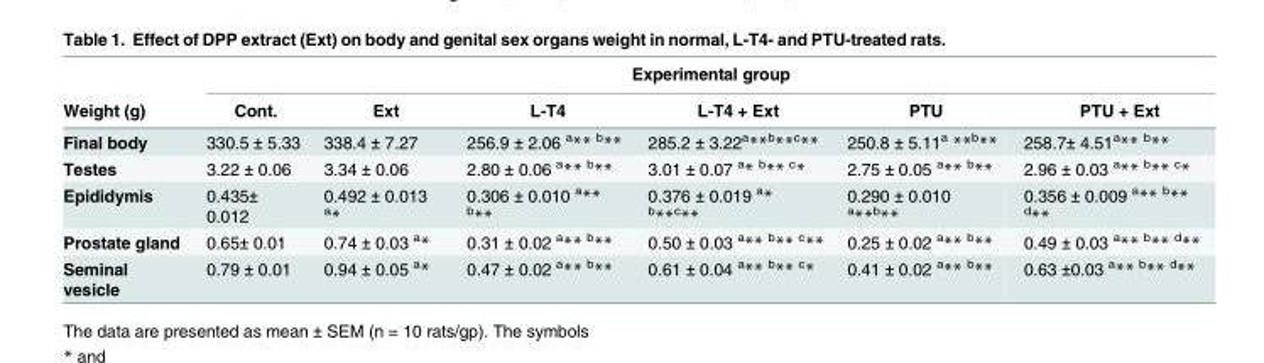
<table><thead><tr><td rowspan="2">Weight (g)</td><td colspan="6">Experimental group</td></tr><tr><td>Cont.</td><td>Ext</td><td>L-T4</td><td>L-T4 + Ext</td><td>PTU</td><td>PTU + Ext</td></tr></thead><tbody><tr><td>Final body</td><td>330.5 ± 5.33</td><td>338.4 ± 7.27</td><td>256.9 ± 2.06 a** b**</td><td>285.2 ± 3.22a**b**c**</td><td>250.8 ± 5.11a **b**</td><td>258.7± 4.51a** b**</td></tr><tr><td>Testes</td><td>3.22 ± 0.06</td><td>3.34 ± 0.06</td><td>2.80 ± 0.06 a** b**</td><td>3.01 ± 0.07 a* b** c*</td><td>2.75 ± 0.05 a** b**</td><td>2.96 ± 0.03 a** b** c*</td></tr><tr><td>Epididymis</td><td>0.435± 0.012</td><td>0.492 ± 0.013 a*</td><td>0.306 ± 0.010 a** b**</td><td>0.376 ± 0.019 a* b**c**</td><td>0.290 ± 0.010 a**b**</td><td>0.356 ± 0.009 a** b** d**</td></tr><tr><td>Prostate gland</td><td>0.65± 0.01</td><td>0.74 ± 0.03 a*</td><td>0.31 ± 0.02 a** b**</td><td>0.50 ± 0.03 a** b** c**</td><td>0.25 ± 0.02 a** b**</td><td>0.49 ± 0.03 a** b** d**</td></tr><tr><td>Seminal vesicle</td><td>0.79 ± 0.01</td><td>0.94 ± 0.05 a*</td><td>0.47 ± 0.02 a** b**</td><td>0.61 ± 0.04 a** b** c*</td><td>0.41 ± 0.02 a** b**</td><td>0.63 ±0.03 a** b** d**</td></tr></tbody></table>